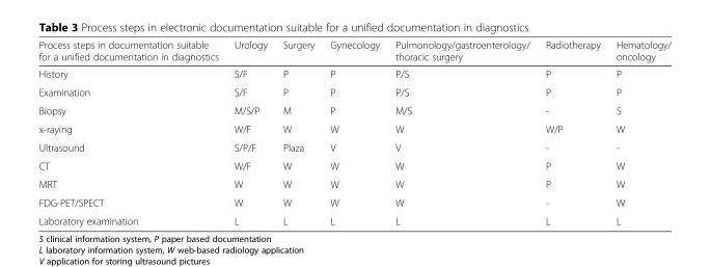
<table><thead><tr><td>Process steps in documentation suitable for a unified documentation in diagnostics</td><td>Urology</td><td>Surgery</td><td>Gynecology</td><td>Pulmonology/gastroenterology/ thoracic surgery</td><td>Radiotherapy</td><td>Hematology/ oncology</td></tr></thead><tbody><tr><td>History</td><td>S/F</td><td>P</td><td>P</td><td>P/S</td><td>P</td><td>P</td></tr><tr><td>Examination</td><td>S/F</td><td>P</td><td>P</td><td>P/S</td><td>P</td><td>P</td></tr><tr><td>Biopsy</td><td>M/S/P</td><td>M</td><td>P</td><td>M/S</td><td>-</td><td>S</td></tr><tr><td>x-raying</td><td>W/F</td><td>W</td><td>W</td><td>W</td><td>W/P</td><td>W</td></tr><tr><td>Ultrasound</td><td>S/P/F</td><td>Plaza</td><td>V</td><td>V</td><td>-</td><td>-</td></tr><tr><td>CT</td><td>W/F</td><td>W</td><td>W</td><td>W</td><td>P</td><td>W</td></tr><tr><td>MRT</td><td>W</td><td>W</td><td>W</td><td>W</td><td>P</td><td>W</td></tr><tr><td>FDG-PET/SPECT</td><td>W</td><td>W</td><td>W</td><td>W</td><td>-</td><td>W</td></tr><tr><td>Laboratory examination</td><td>L</td><td>L</td><td>L</td><td>L</td><td>L</td><td>L</td></tr></tbody></table>